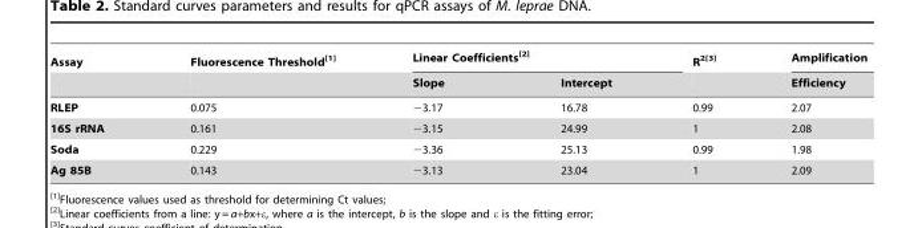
<table><thead><tr><td rowspan="2">Assay</td><td rowspan="2">Fluorescence Threshold[1]</td><td colspan="2">Linear Coefficients[2]</td><td rowspan="2">R<sup>2</sup>[3]</td><td rowspan="2">Amplification Efficiency</td></tr><tr><td>Slope</td><td>Intercept</td></tr></thead><tbody><tr><td>RLEP</td><td>0.075</td><td>−3.17</td><td>16.78</td><td>0.99</td><td>2.07</td></tr><tr><td>16S rRNA</td><td>0.161</td><td>−3.15</td><td>24.99</td><td>1</td><td>2.08</td></tr><tr><td>Soda</td><td>0.229</td><td>−3.36</td><td>25.13</td><td>0.99</td><td>1.98</td></tr><tr><td>Ag 85B</td><td>0.143</td><td>−3.13</td><td>23.04</td><td>1</td><td>2.09</td></tr></tbody></table>